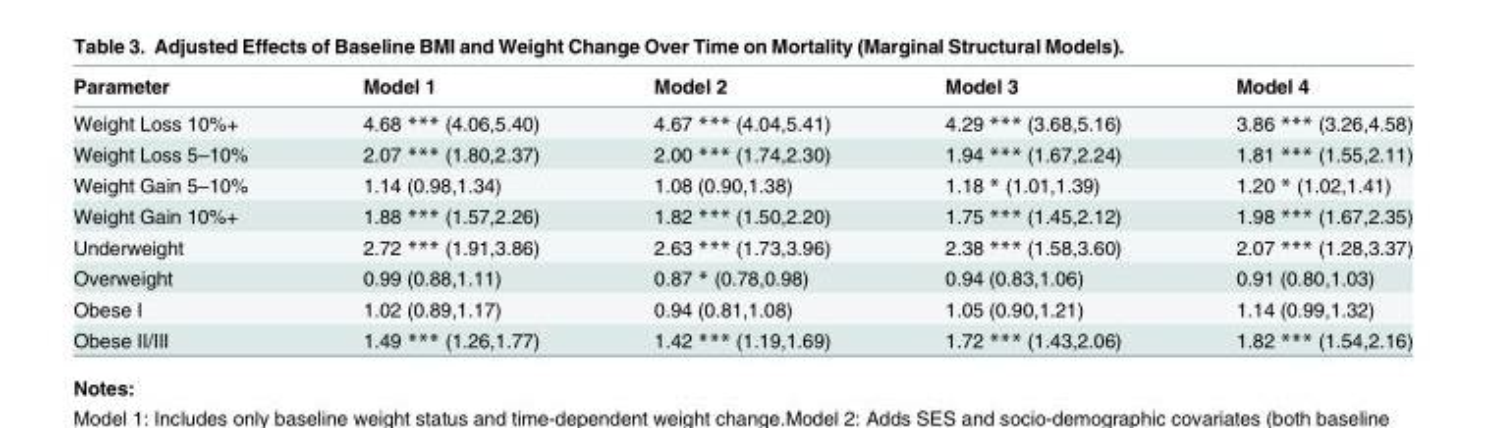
<table><thead><tr><td>Parameter</td><td>Model 1</td><td>Model 2</td><td>Model 3</td><td>Model 4</td></tr></thead><tbody><tr><td>Weight Loss 10%+</td><td>4.68 *** (4.06,5.40)</td><td>4.67 *** (4.04,5.41)</td><td>4.29 *** (3.68,5.16)</td><td>3.86 *** (3.26,4.58)</td></tr><tr><td>Weight Loss 5–10%</td><td>2.07 *** (1.80,2.37)</td><td>2.00 *** (1.74,2.30)</td><td>1.94 *** (1.67,2.24)</td><td>1.81 *** (1.55,2.11)</td></tr><tr><td>Weight Gain 5–10%</td><td>1.14 (0.98,1.34)</td><td>1.08 (0.90,1.38)</td><td>1.18 * (1.01,1.39)</td><td>1.20 * (1.02,1.41)</td></tr><tr><td>Weight Gain 10%+</td><td>1.88 *** (1.57,2.26)</td><td>1.82 *** (1.50,2.20)</td><td>1.75 *** (1.45,2.12)</td><td>1.98 *** (1.67,2.35)</td></tr><tr><td>Underweight</td><td>2.72 *** (1.91,3.86)</td><td>2.63 *** (1.73,3.96)</td><td>2.38 *** (1.58,3.60)</td><td>2.07 *** (1.28,3.37)</td></tr><tr><td>Overweight</td><td>0.99 (0.88,1.11)</td><td>0.87 * (0.78,0.98)</td><td>0.94 (0.83,1.06)</td><td>0.91 (0.80,1.03)</td></tr><tr><td>Obese I</td><td>1.02 (0.89,1.17)</td><td>0.94 (0.81,1.08)</td><td>1.05 (0.90,1.21)</td><td>1.14 (0.99,1.32)</td></tr><tr><td>Obese II/III</td><td>1.49 *** (1.26,1.77)</td><td>1.42 *** (1.19,1.69)</td><td>1.72 *** (1.43,2.06)</td><td>1.82 *** (1.54,2.16)</td></tr></tbody></table>